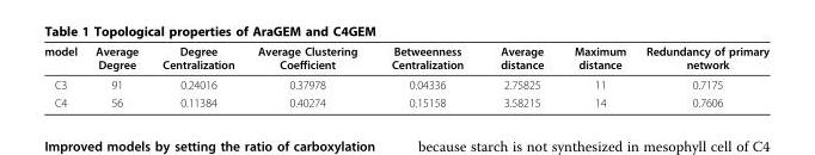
<table><thead><tr><td>model</td><td>Average Degree</td><td>Degree Centralization</td><td>Average Clustering Coefficient</td><td>Betweenness Centralization</td><td>Average distance</td><td>Maximum distance</td><td>Redundancy of primary network</td></tr></thead><tbody><tr><td>C3</td><td>91</td><td>0.24016</td><td>0.37978</td><td>0.04336</td><td>2.75825</td><td>11</td><td>0.7175</td></tr><tr><td>C4</td><td>56</td><td>0.11384</td><td>0.40274</td><td>0.15158</td><td>3.58215</td><td>14</td><td>0.7606</td></tr></tbody></table>